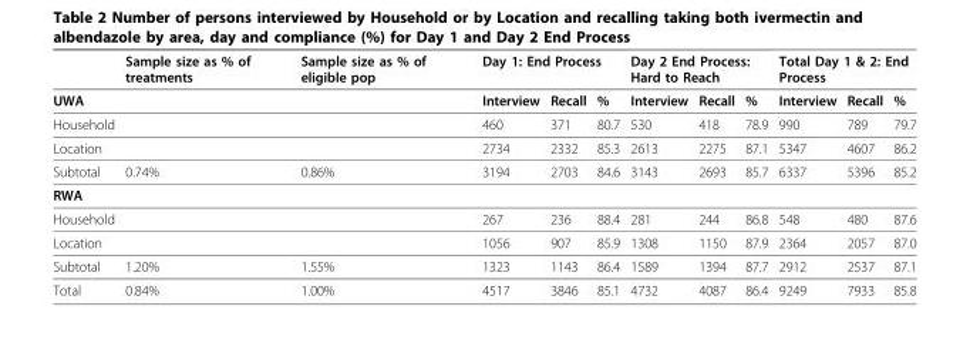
<table><thead><tr><td rowspan="2">UWA</td><td rowspan="2">Sample size as % of treatments</td><td rowspan="2">Sample size as % of eligible pop</td><td colspan="3">Day 1: End Process</td><td colspan="3">Day 2 End Process: Hard to Reach</td><td colspan="3">Total Day 1 &amp; 2: End Process</td></tr><tr><td>Interview</td><td>Recall</td><td>%</td><td>Interview</td><td>Recall</td><td>%</td><td>Interview</td><td>Recall</td><td>%</td></tr></thead><tbody><tr><td>Household</td><td></td><td></td><td>460</td><td>371</td><td>80.7</td><td>530</td><td>418</td><td>78.9</td><td>990</td><td>789</td><td>79.7</td></tr><tr><td>Location</td><td></td><td></td><td>2734</td><td>2332</td><td>85.3</td><td>2613</td><td>2275</td><td>87.1</td><td>5347</td><td>4607</td><td>86.2</td></tr><tr><td>Subtotal</td><td>0.74%</td><td>0.86%</td><td>3194</td><td>2703</td><td>84.6</td><td>3143</td><td>2693</td><td>85.7</td><td>6337</td><td>5396</td><td>85.2</td></tr><tr><td colspan="12">RWA</td></tr><tr><td>Household</td><td></td><td></td><td>267</td><td>236</td><td>88.4</td><td>281</td><td>244</td><td>86.8</td><td>548</td><td>480</td><td>87.6</td></tr><tr><td>Location</td><td></td><td></td><td>1056</td><td>907</td><td>85.9</td><td>1308</td><td>1150</td><td>87.9</td><td>2364</td><td>2057</td><td>87.0</td></tr><tr><td>Subtotal</td><td>1.20%</td><td>1.55%</td><td>1323</td><td>1143</td><td>86.4</td><td>1589</td><td>1394</td><td>87.7</td><td>2912</td><td>2537</td><td>87.1</td></tr><tr><td>Total</td><td>0.84%</td><td>1.00%</td><td>4517</td><td>3846</td><td>85.1</td><td>4732</td><td>4087</td><td>86.4</td><td>9249</td><td>7933</td><td>85.8</td></tr></tbody></table>